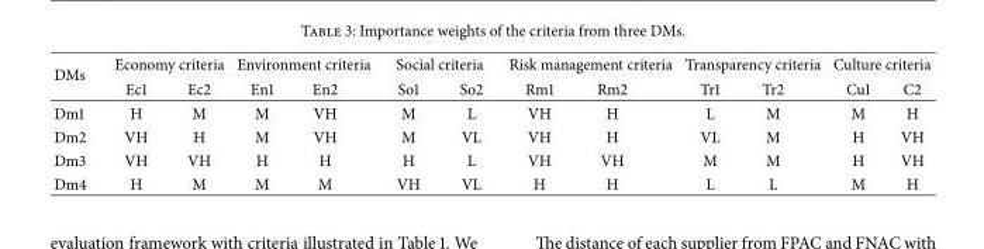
<table><thead><tr><td rowspan="2">DMs</td><td colspan="2">Economy criteria</td><td colspan="2">Environment criteria</td><td colspan="2">Social criteria</td><td colspan="2">Risk management criteria</td><td colspan="2">Transparency criteria</td><td colspan="2">Culture criteria</td></tr><tr><td>Ec1</td><td>Ec2</td><td>En1</td><td>En2</td><td>So1</td><td>So2</td><td>Rm1</td><td>Rm2</td><td>Tr1</td><td>Tr2</td><td>Cu1</td><td>C2</td></tr></thead><tbody><tr><td>Dm1</td><td>H</td><td>M</td><td>M</td><td>VH</td><td>M</td><td>L</td><td>VH</td><td>H</td><td>L</td><td>M</td><td>M</td><td>H</td></tr><tr><td>Dm2</td><td>VH</td><td>H</td><td>M</td><td>VH</td><td>M</td><td>VL</td><td>VH</td><td>H</td><td>VL</td><td>M</td><td>H</td><td>VH</td></tr><tr><td>Dm3</td><td>VH</td><td>VH</td><td>H</td><td>H</td><td>H</td><td>L</td><td>VH</td><td>VH</td><td>M</td><td>M</td><td>H</td><td>VH</td></tr><tr><td>Dm4</td><td>H</td><td>M</td><td>M</td><td>M</td><td>VH</td><td>VL</td><td>H</td><td>H</td><td>L</td><td>L</td><td>M</td><td>H</td></tr></tbody></table>